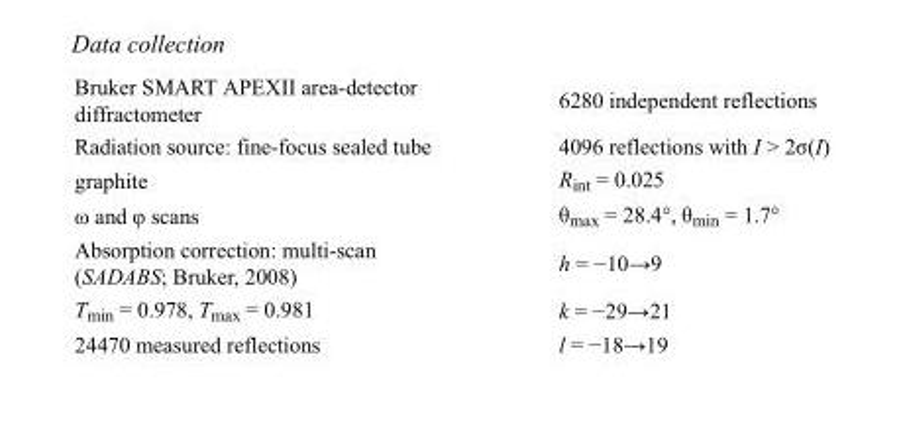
<table><tbody><tr><td>Bruker SMART APEXII area-detector diffractometer</td><td>6280 independent reflections</td></tr><tr><td>Radiation source: fine-focus sealed tube</td><td>4096 reflections with I &gt; 2σ(I)</td></tr><tr><td>graphite</td><td>R<sub>int</sub> = 0.025</td></tr><tr><td>ω and φ scans</td><td>θ<sub>max</sub> = 28.4°, θ<sub>min</sub> = 1.7°</td></tr><tr><td>Absorption correction: multi-scan (SADABS; Bruker, 2008)</td><td>h = −10→9</td></tr><tr><td>T<sub>min</sub> = 0.978, T<sub>max</sub> = 0.981</td><td>k = −29→21</td></tr><tr><td>24470 measured reflections</td><td>l = −18→19</td></tr></tbody></table>